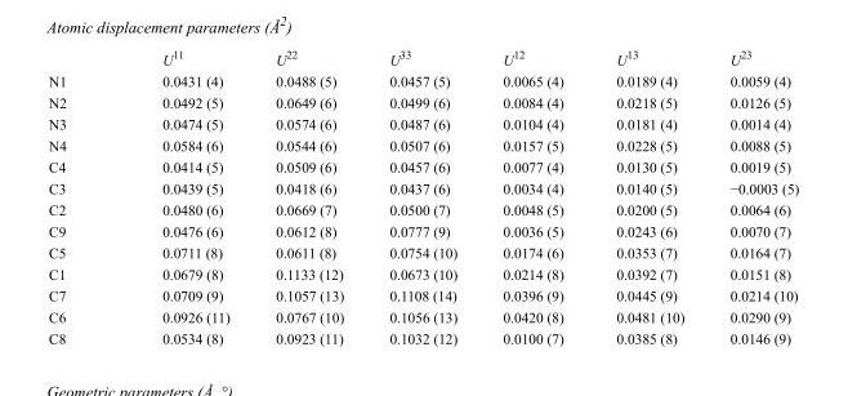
<table><thead><tr><td></td><td>U<sup>11</sup></td><td>U<sup>22</sup></td><td>U<sup>33</sup></td><td>U<sup>12</sup></td><td>U<sup>13</sup></td><td>U<sup>23</sup></td></tr></thead><tbody><tr><td>N1</td><td>0.0431 (4)</td><td>0.0488 (5)</td><td>0.0457 (5)</td><td>0.0065 (4)</td><td>0.0189 (4)</td><td>0.0059 (4)</td></tr><tr><td>N2</td><td>0.0492 (5)</td><td>0.0649 (6)</td><td>0.0499 (6)</td><td>0.0084 (4)</td><td>0.0218 (5)</td><td>0.0126 (5)</td></tr><tr><td>N3</td><td>0.0474 (5)</td><td>0.0574 (6)</td><td>0.0487 (6)</td><td>0.0104 (4)</td><td>0.0181 (4)</td><td>0.0014 (4)</td></tr><tr><td>N4</td><td>0.0584 (6)</td><td>0.0544 (6)</td><td>0.0507 (6)</td><td>0.0157 (5)</td><td>0.0228 (5)</td><td>0.0088 (5)</td></tr><tr><td>C4</td><td>0.0414 (5)</td><td>0.0509 (6)</td><td>0.0457 (6)</td><td>0.0077 (4)</td><td>0.0130 (5)</td><td>0.0019 (5)</td></tr><tr><td>C3</td><td>0.0439 (5)</td><td>0.0418 (6)</td><td>0.0437 (6)</td><td>0.0034 (4)</td><td>0.0140 (5)</td><td>−0.0003 (5)</td></tr><tr><td>C2</td><td>0.0480 (6)</td><td>0.0669 (7)</td><td>0.0500 (7)</td><td>0.0048 (5)</td><td>0.0200 (5)</td><td>0.0064 (6)</td></tr><tr><td>C9</td><td>0.0476 (6)</td><td>0.0612 (8)</td><td>0.0777 (9)</td><td>0.0036 (5)</td><td>0.0243 (6)</td><td>0.0070 (7)</td></tr><tr><td>C5</td><td>0.0711 (8)</td><td>0.0611 (8)</td><td>0.0754 (10)</td><td>0.0174 (6)</td><td>0.0353 (7)</td><td>0.0164 (7)</td></tr><tr><td>C1</td><td>0.0679 (8)</td><td>0.1133 (12)</td><td>0.0673 (10)</td><td>0.0214 (8)</td><td>0.0392 (7)</td><td>0.0151 (8)</td></tr><tr><td>C7</td><td>0.0709 (9)</td><td>0.1057 (13)</td><td>0.1108 (14)</td><td>0.0396 (9)</td><td>0.0445 (9)</td><td>0.0214 (10)</td></tr><tr><td>C6</td><td>0.0926 (11)</td><td>0.0767 (10)</td><td>0.1056 (13)</td><td>0.0420 (8)</td><td>0.0481 (10)</td><td>0.0290 (9)</td></tr><tr><td>C8</td><td>0.0534 (8)</td><td>0.0923 (11)</td><td>0.1032 (12)</td><td>0.0100 (7)</td><td>0.0385 (8)</td><td>0.0146 (9)</td></tr></tbody></table>